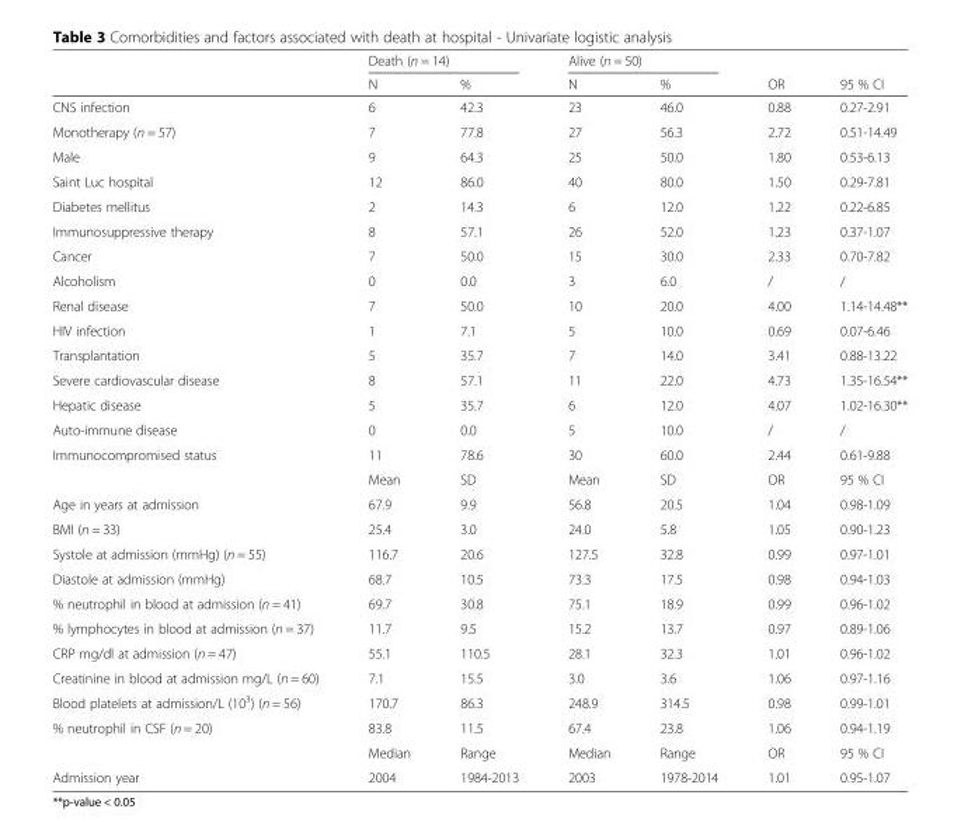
<table><thead><tr><td rowspan="2"></td><td colspan="2">Death (n = 14)</td><td colspan="2">Alive (n = 50)</td><td rowspan="2">OR</td><td rowspan="2">95 % CI</td></tr><tr><td>N</td><td>%</td><td>N</td><td>%</td></tr></thead><tbody><tr><td>CNS infection</td><td>6</td><td>42.3</td><td>23</td><td>46.0</td><td>0.88</td><td>0.27-2.91</td></tr><tr><td>Monotherapy (n = 57)</td><td>7</td><td>77.8</td><td>27</td><td>56.3</td><td>2.72</td><td>0.51-14.49</td></tr><tr><td>Male</td><td>9</td><td>64.3</td><td>25</td><td>50.0</td><td>1.80</td><td>0.53-6.13</td></tr><tr><td>Saint Luc hospital</td><td>12</td><td>86.0</td><td>40</td><td>80.0</td><td>1.50</td><td>0.29-7.81</td></tr><tr><td>Diabetes mellitus</td><td>2</td><td>14.3</td><td>6</td><td>12.0</td><td>1.22</td><td>0.22-6.85</td></tr><tr><td>Immunosuppressive therapy</td><td>8</td><td>57.1</td><td>26</td><td>52.0</td><td>1.23</td><td>0.37-1.07</td></tr><tr><td>Cancer</td><td>7</td><td>50.0</td><td>15</td><td>30.0</td><td>2.33</td><td>0.70-7.82</td></tr><tr><td>Alcoholism</td><td>0</td><td>0.0</td><td>3</td><td>6.0</td><td>/</td><td>/</td></tr><tr><td>Renal disease</td><td>7</td><td>50.0</td><td>10</td><td>20.0</td><td>4.00</td><td>1.14-14.48**</td></tr><tr><td>HIV infection</td><td>1</td><td>7.1</td><td>5</td><td>10.0</td><td>0.69</td><td>0.07-6.46</td></tr><tr><td>Transplantation</td><td>5</td><td>35.7</td><td>7</td><td>14.0</td><td>3.41</td><td>0.88-13.22</td></tr><tr><td>Severe cardiovascular disease</td><td>8</td><td>57.1</td><td>11</td><td>22.0</td><td>4.73</td><td>1.35-16.54**</td></tr><tr><td>Hepatic disease</td><td>5</td><td>35.7</td><td>6</td><td>12.0</td><td>4.07</td><td>1.02-16.30**</td></tr><tr><td>Auto-immune disease</td><td>0</td><td>0.0</td><td>5</td><td>10.0</td><td>/</td><td>/</td></tr><tr><td rowspan="2">Immunocompromised status</td><td>11</td><td>78.6</td><td>30</td><td>60.0</td><td>2.44</td><td>0.61-9.88</td></tr><tr><td>Mean</td><td>SD</td><td>Mean</td><td>SD</td><td>OR</td><td>95 % CI</td></tr><tr><td>Age in years at admission</td><td>67.9</td><td>9.9</td><td>56.8</td><td>20.5</td><td>1.04</td><td>0.98-1.09</td></tr><tr><td>BMI (n = 33)</td><td>25.4</td><td>3.0</td><td>24.0</td><td>5.8</td><td>1.05</td><td>0.90-1.23</td></tr><tr><td>Systole at admission (mmHg) (n = 55)</td><td>116.7</td><td>20.6</td><td>127.5</td><td>32.8</td><td>0.99</td><td>0.97-1.01</td></tr><tr><td>Diastole at admission (mmHg)</td><td>68.7</td><td>10.5</td><td>73.3</td><td>17.5</td><td>0.98</td><td>0.94-1.03</td></tr><tr><td>% neutrophil in blood at admission (n = 41)</td><td>69.7</td><td>30.8</td><td>75.1</td><td>18.9</td><td>0.99</td><td>0.96-1.02</td></tr><tr><td>% lymphocytes in blood at admission (n = 37)</td><td>11.7</td><td>9.5</td><td>15.2</td><td>13.7</td><td>0.97</td><td>0.89-1.06</td></tr><tr><td>CRP mg/dl at admission (n = 47)</td><td>55.1</td><td>110.5</td><td>28.1</td><td>32.3</td><td>1.01</td><td>0.96-1.02</td></tr><tr><td>Creatinine in blood at admission mg/L (n = 60)</td><td>7.1</td><td>15.5</td><td>3.0</td><td>3.6</td><td>1.06</td><td>0.97-1.16</td></tr><tr><td>Blood platelets at admission/L (10<sup>3</sup>) (n = 56)</td><td>170.7</td><td>86.3</td><td>248.9</td><td>314.5</td><td>0.98</td><td>0.99-1.01</td></tr><tr><td rowspan="2">% neutrophil in CSF (n = 20)</td><td>83.8</td><td>11.5</td><td>67.4</td><td>23.8</td><td>1.06</td><td>0.94-1.19</td></tr><tr><td>Median</td><td>Range</td><td>Median</td><td>Range</td><td>OR</td><td>95 % CI</td></tr><tr><td>Admission year</td><td>2004</td><td>1984-2013</td><td>2003</td><td>1978-2014</td><td>1.01</td><td>0.95-1.07</td></tr></tbody></table>